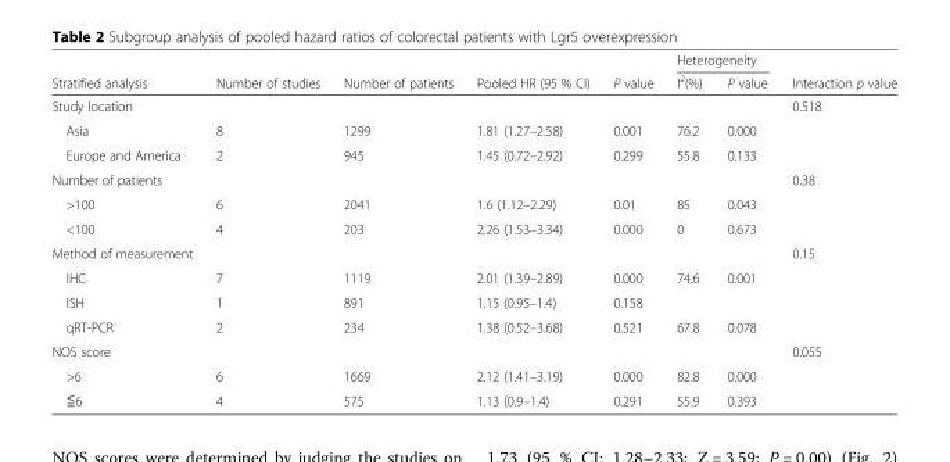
<table><thead><tr><td rowspan="2">Stratified analysis</td><td rowspan="2">Number of studies</td><td rowspan="2">Number of patients</td><td rowspan="2">Pooled HR (95 % CI)</td><td rowspan="2">P value</td><td colspan="2">Heterogeneity</td><td rowspan="2">Interaction p value</td></tr><tr><td>I<sup>2</sup>(%)</td><td>P value</td></tr></thead><tbody><tr><td>Study location</td><td></td><td></td><td></td><td></td><td></td><td></td><td>0.518</td></tr><tr><td>Asia</td><td>8</td><td>1299</td><td>1.81 (1.27–2.58)</td><td>0.001</td><td>76.2</td><td>0.000</td><td></td></tr><tr><td>Europe and America</td><td>2</td><td>945</td><td>1.45 (0.72–2.92)</td><td>0.299</td><td>55.8</td><td>0.133</td><td></td></tr><tr><td>Number of patients</td><td></td><td></td><td></td><td></td><td></td><td></td><td>0.38</td></tr><tr><td>&gt;100</td><td>6</td><td>2041</td><td>1.6 (1.12–2.29)</td><td>0.01</td><td>85</td><td>0.043</td><td></td></tr><tr><td>&lt;100</td><td>4</td><td>203</td><td>2.26 (1.53–3.34)</td><td>0.000</td><td>0</td><td>0.673</td><td></td></tr><tr><td>Method of measurement</td><td></td><td></td><td></td><td></td><td></td><td></td><td>0.15</td></tr><tr><td>IHC</td><td>7</td><td>1119</td><td>2.01 (1.39–2.89)</td><td>0.000</td><td>74.6</td><td>0.001</td><td></td></tr><tr><td>ISH</td><td>1</td><td>891</td><td>1.15 (0.95–1.4)</td><td>0.158</td><td></td><td></td><td></td></tr><tr><td>qRT-PCR</td><td>2</td><td>234</td><td>1.38 (0.52–3.68)</td><td>0.521</td><td>67.8</td><td>0.078</td><td></td></tr><tr><td>NOS score</td><td></td><td></td><td></td><td></td><td></td><td></td><td>0.055</td></tr><tr><td>&gt;6</td><td>6</td><td>1669</td><td>2.12 (1.41–3.19)</td><td>0.000</td><td>82.8</td><td>0.000</td><td></td></tr><tr><td>≦6</td><td>4</td><td>575</td><td>1.13 (0.9–1.4)</td><td>0.291</td><td>55.9</td><td>0.393</td><td></td></tr></tbody></table>